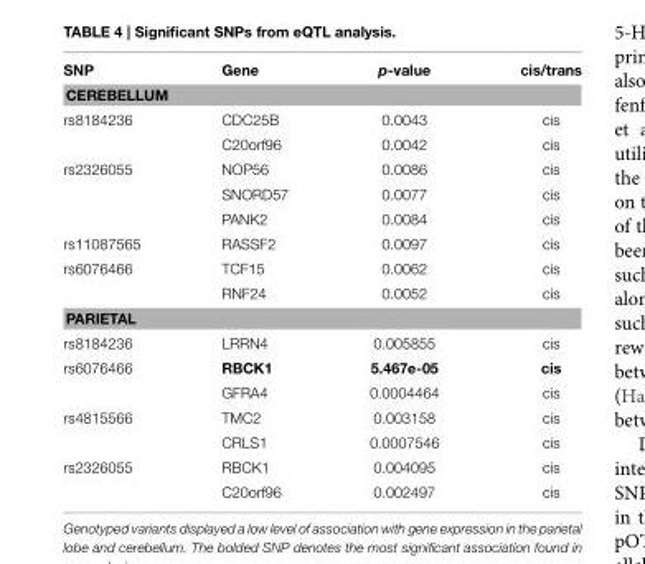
<table><thead><tr><td>SNP</td><td>Gene</td><td>p-value</td><td>cis/trans</td></tr></thead><tbody><tr><td colspan="4">CEREBELLUM</td></tr><tr><td rowspan="2">rs8184236</td><td>CDC25B</td><td>0.0043</td><td>cis</td></tr><tr><td>C20orf96</td><td>0.0042</td><td>cis</td></tr><tr><td rowspan="3">rs2326055</td><td>NOP56</td><td>0.0086</td><td>cis</td></tr><tr><td>SNORD57</td><td>0.0077</td><td>cis</td></tr><tr><td>PANK2</td><td>0.0084</td><td>cis</td></tr><tr><td>rs11087565</td><td>RASSF2</td><td>0.0097</td><td>cis</td></tr><tr><td rowspan="2">rs6076466</td><td>TCF15</td><td>0.0062</td><td>cis</td></tr><tr><td>RNF24</td><td>0.0052</td><td>cis</td></tr><tr><td colspan="4">PARIETAL</td></tr><tr><td>rs8184236</td><td>LRRN4</td><td>0.005855</td><td>cis</td></tr><tr><td rowspan="2">rs6076466</td><td>RBCK1</td><td>5.467e-05</td><td>cis</td></tr><tr><td>GFRA4</td><td>0.0004464</td><td>cis</td></tr><tr><td rowspan="2">rs4815566</td><td>TMC2</td><td>0.003158</td><td>cis</td></tr><tr><td>CRLS1</td><td>0.0007546</td><td>cis</td></tr><tr><td rowspan="2">rs2326055</td><td>RBCK1</td><td>0.004095</td><td>cis</td></tr><tr><td>C20orf96</td><td>0.002497</td><td>cis</td></tr></tbody></table>